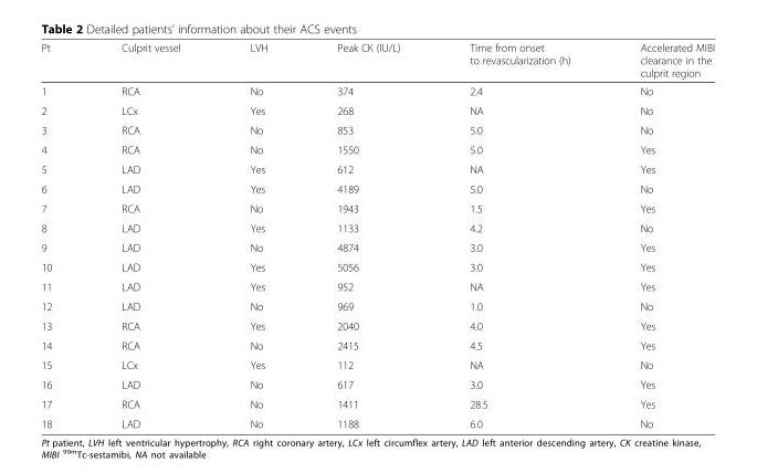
<table><thead><tr><td>Pt</td><td>Culprit vessel</td><td>LVH</td><td>Peak CK (IU/L)</td><td>Time from onset to revascularization (h)</td><td>Accelerated MIBI clearance in the culprit region</td></tr></thead><tbody><tr><td>1</td><td>RCA</td><td>No</td><td>374</td><td>2.4</td><td>No</td></tr><tr><td>2</td><td>LCx</td><td>Yes</td><td>268</td><td>NA</td><td>No</td></tr><tr><td>3</td><td>RCA</td><td>No</td><td>853</td><td>5.0</td><td>No</td></tr><tr><td>4</td><td>RCA</td><td>No</td><td>1550</td><td>5.0</td><td>Yes</td></tr><tr><td>5</td><td>LAD</td><td>Yes</td><td>612</td><td>NA</td><td>Yes</td></tr><tr><td>6</td><td>LAD</td><td>Yes</td><td>4189</td><td>5.0</td><td>No</td></tr><tr><td>7</td><td>RCA</td><td>No</td><td>1943</td><td>1.5</td><td>Yes</td></tr><tr><td>8</td><td>LAD</td><td>Yes</td><td>1133</td><td>4.2</td><td>No</td></tr><tr><td>9</td><td>LAD</td><td>No</td><td>4874</td><td>3.0</td><td>Yes</td></tr><tr><td>10</td><td>LAD</td><td>Yes</td><td>5056</td><td>3.0</td><td>Yes</td></tr><tr><td>11</td><td>LAD</td><td>Yes</td><td>952</td><td>NA</td><td>Yes</td></tr><tr><td>12</td><td>LAD</td><td>No</td><td>969</td><td>1.0</td><td>No</td></tr><tr><td>13</td><td>RCA</td><td>Yes</td><td>2040</td><td>4.0</td><td>Yes</td></tr><tr><td>14</td><td>RCA</td><td>No</td><td>2415</td><td>4.5</td><td>Yes</td></tr><tr><td>15</td><td>LCx</td><td>Yes</td><td>112</td><td>NA</td><td>No</td></tr><tr><td>16</td><td>LAD</td><td>No</td><td>617</td><td>3.0</td><td>Yes</td></tr><tr><td>17</td><td>RCA</td><td>No</td><td>1411</td><td>28.5</td><td>Yes</td></tr><tr><td>18</td><td>LAD</td><td>No</td><td>1188</td><td>6.0</td><td>No</td></tr></tbody></table>